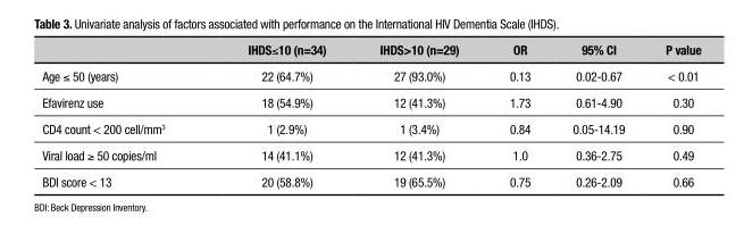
<table><thead><tr><td></td><td>IHDS≤10 (n=34)</td><td>IHDS&gt;10 (n=29)</td><td>OR</td><td>95% CI</td><td>P value</td></tr></thead><tbody><tr><td>Age ≤ 50 (years)</td><td>22 (64.7%)</td><td>27 (93.0%)</td><td>0.13</td><td>0.02-0.67</td><td>&lt; 0.01</td></tr><tr><td>Efavirenz use</td><td>18 (54.9%)</td><td>12 (41.3%)</td><td>1.73</td><td>0.61-4.90</td><td>0.30</td></tr><tr><td>CD4 count &lt; 200 cell/mm<sup>3</sup></td><td>1 (2.9%)</td><td>1 (3.4%)</td><td>0.84</td><td>0.05-14.19</td><td>0.90</td></tr><tr><td>Viral load ≥ 50 copies/ml</td><td>14 (41.1%)</td><td>12 (41.3%)</td><td>1.0</td><td>0.36-2.75</td><td>0.49</td></tr><tr><td>BDI score &lt; 13</td><td>20 (58.8%)</td><td>19 (65.5%)</td><td>0.75</td><td>0.26-2.09</td><td>0.66</td></tr></tbody></table>